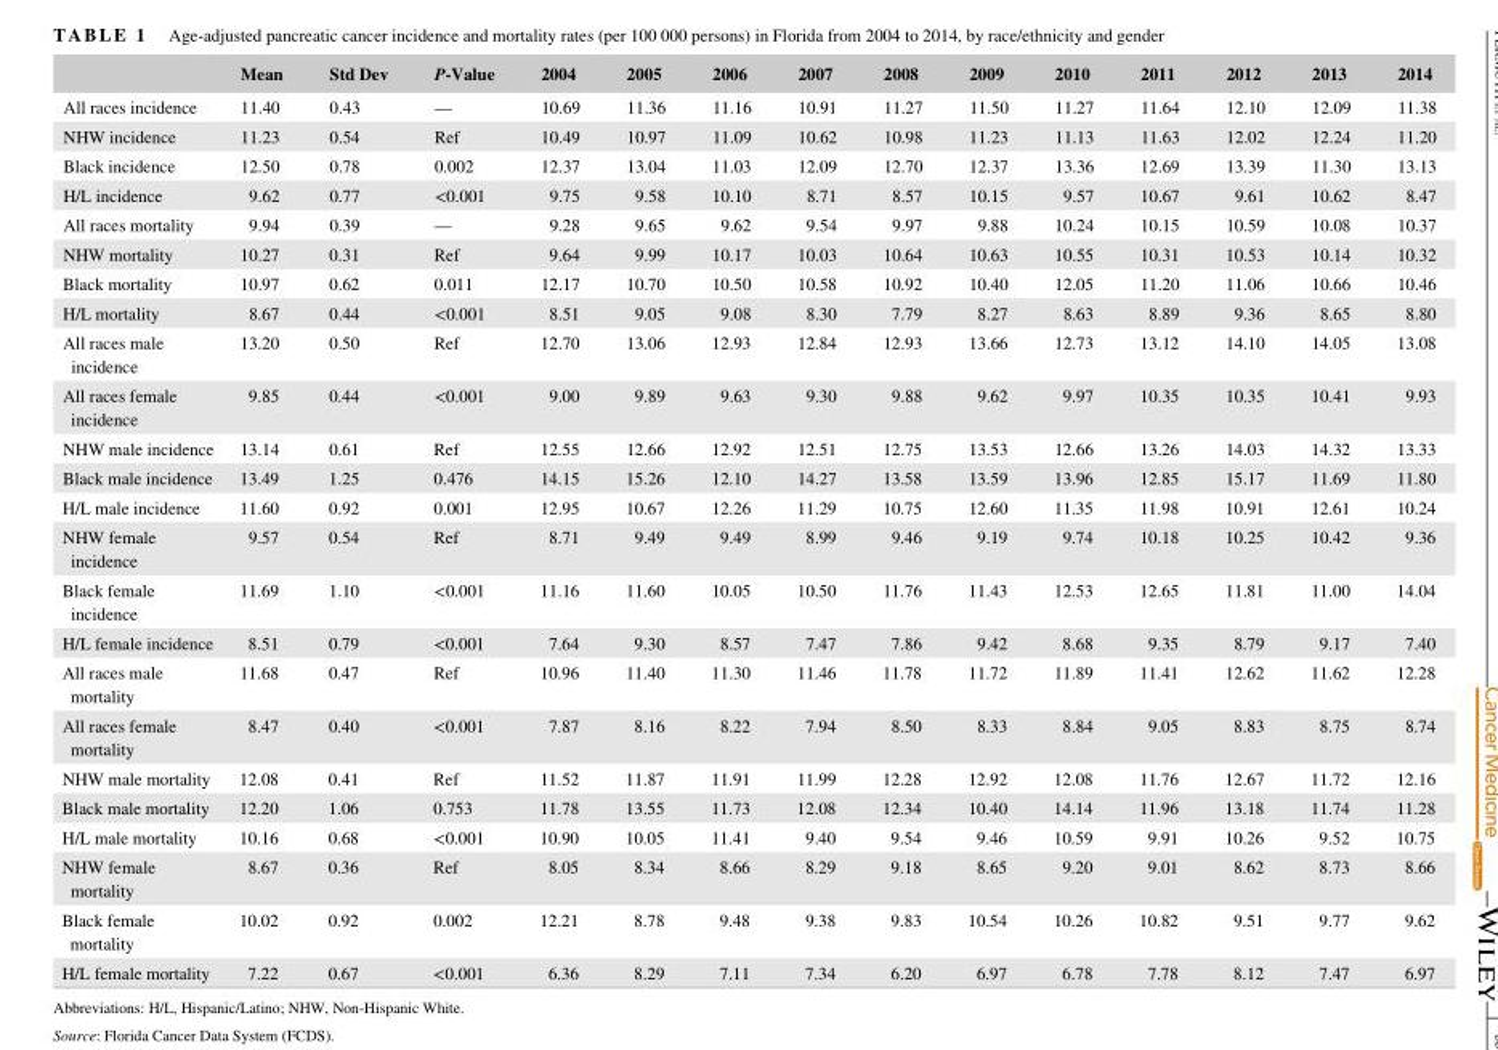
<table><thead><tr><td></td><td>Mean</td><td>Std Dev</td><td>P‐Value</td><td>2004</td><td>2005</td><td>2006</td><td>2007</td><td>2008</td><td>2009</td><td>2010</td><td>2011</td><td>2012</td><td>2013</td><td>2014</td></tr></thead><tbody><tr><td>All races incidence</td><td>11.40</td><td>0.43</td><td>—</td><td>10.69</td><td>11.36</td><td>11.16</td><td>10.91</td><td>11.27</td><td>11.50</td><td>11.27</td><td>11.64</td><td>12.10</td><td>12.09</td><td>11.38</td></tr><tr><td>NHW incidence</td><td>11.23</td><td>0.54</td><td>Ref</td><td>10.49</td><td>10.97</td><td>11.09</td><td>10.62</td><td>10.98</td><td>11.23</td><td>11.13</td><td>11.63</td><td>12.02</td><td>12.24</td><td>11.20</td></tr><tr><td>Black incidence</td><td>12.50</td><td>0.78</td><td>0.002</td><td>12.37</td><td>13.04</td><td>11.03</td><td>12.09</td><td>12.70</td><td>12.37</td><td>13.36</td><td>12.69</td><td>13.39</td><td>11.30</td><td>13.13</td></tr><tr><td>H/L incidence</td><td>9.62</td><td>0.77</td><td>&lt;0.001</td><td>9.75</td><td>9.58</td><td>10.10</td><td>8.71</td><td>8.57</td><td>10.15</td><td>9.57</td><td>10.67</td><td>9.61</td><td>10.62</td><td>8.47</td></tr><tr><td>All races mortality</td><td>9.94</td><td>0.39</td><td>—</td><td>9.28</td><td>9.65</td><td>9.62</td><td>9.54</td><td>9.97</td><td>9.88</td><td>10.24</td><td>10.15</td><td>10.59</td><td>10.08</td><td>10.37</td></tr><tr><td>NHW mortality</td><td>10.27</td><td>0.31</td><td>Ref</td><td>9.64</td><td>9.99</td><td>10.17</td><td>10.03</td><td>10.64</td><td>10.63</td><td>10.55</td><td>10.31</td><td>10.53</td><td>10.14</td><td>10.32</td></tr><tr><td>Black mortality</td><td>10.97</td><td>0.62</td><td>0.011</td><td>12.17</td><td>10.70</td><td>10.50</td><td>10.58</td><td>10.92</td><td>10.40</td><td>12.05</td><td>11.20</td><td>11.06</td><td>10.66</td><td>10.46</td></tr><tr><td>H/L mortality</td><td>8.67</td><td>0.44</td><td>&lt;0.001</td><td>8.51</td><td>9.05</td><td>9.08</td><td>8.30</td><td>7.79</td><td>8.27</td><td>8.63</td><td>8.89</td><td>9.36</td><td>8.65</td><td>8.80</td></tr><tr><td>All races male incidence</td><td>13.20</td><td>0.50</td><td>Ref</td><td>12.70</td><td>13.06</td><td>12.93</td><td>12.84</td><td>12.93</td><td>13.66</td><td>12.73</td><td>13.12</td><td>14.10</td><td>14.05</td><td>13.08</td></tr><tr><td>All races female incidence</td><td>9.85</td><td>0.44</td><td>&lt;0.001</td><td>9.00</td><td>9.89</td><td>9.63</td><td>9.30</td><td>9.88</td><td>9.62</td><td>9.97</td><td>10.35</td><td>10.35</td><td>10.41</td><td>9.93</td></tr><tr><td>NHW male incidence</td><td>13.14</td><td>0.61</td><td>Ref</td><td>12.55</td><td>12.66</td><td>12.92</td><td>12.51</td><td>12.75</td><td>13.53</td><td>12.66</td><td>13.26</td><td>14.03</td><td>14.32</td><td>13.33</td></tr><tr><td>Black male incidence</td><td>13.49</td><td>1.25</td><td>0.476</td><td>14.15</td><td>15.26</td><td>12.10</td><td>14.27</td><td>13.58</td><td>13.59</td><td>13.96</td><td>12.85</td><td>15.17</td><td>11.69</td><td>11.80</td></tr><tr><td>H/L male incidence</td><td>11.60</td><td>0.92</td><td>0.001</td><td>12.95</td><td>10.67</td><td>12.26</td><td>11.29</td><td>10.75</td><td>12.60</td><td>11.35</td><td>11.98</td><td>10.91</td><td>12.61</td><td>10.24</td></tr><tr><td>NHW female incidence</td><td>9.57</td><td>0.54</td><td>Ref</td><td>8.71</td><td>9.49</td><td>9.49</td><td>8.99</td><td>9.46</td><td>9.19</td><td>9.74</td><td>10.18</td><td>10.25</td><td>10.42</td><td>9.36</td></tr><tr><td>Black female incidence</td><td>11.69</td><td>1.10</td><td>&lt;0.001</td><td>11.16</td><td>11.60</td><td>10.05</td><td>10.50</td><td>11.76</td><td>11.43</td><td>12.53</td><td>12.65</td><td>11.81</td><td>11.00</td><td>14.04</td></tr><tr><td>H/L female incidence</td><td>8.51</td><td>0.79</td><td>&lt;0.001</td><td>7.64</td><td>9.30</td><td>8.57</td><td>7.47</td><td>7.86</td><td>9.42</td><td>8.68</td><td>9.35</td><td>8.79</td><td>9.17</td><td>7.40</td></tr><tr><td>All races male mortality</td><td>11.68</td><td>0.47</td><td>Ref</td><td>10.96</td><td>11.40</td><td>11.30</td><td>11.46</td><td>11.78</td><td>11.72</td><td>11.89</td><td>11.41</td><td>12.62</td><td>11.62</td><td>12.28</td></tr><tr><td>All races female mortality</td><td>8.47</td><td>0.40</td><td>&lt;0.001</td><td>7.87</td><td>8.16</td><td>8.22</td><td>7.94</td><td>8.50</td><td>8.33</td><td>8.84</td><td>9.05</td><td>8.83</td><td>8.75</td><td>8.74</td></tr><tr><td>NHW male mortality</td><td>12.08</td><td>0.41</td><td>Ref</td><td>11.52</td><td>11.87</td><td>11.91</td><td>11.99</td><td>12.28</td><td>12.92</td><td>12.08</td><td>11.76</td><td>12.67</td><td>11.72</td><td>12.16</td></tr><tr><td>Black male mortality</td><td>12.20</td><td>1.06</td><td>0.753</td><td>11.78</td><td>13.55</td><td>11.73</td><td>12.08</td><td>12.34</td><td>10.40</td><td>14.14</td><td>11.96</td><td>13.18</td><td>11.74</td><td>11.28</td></tr><tr><td>H/L male mortality</td><td>10.16</td><td>0.68</td><td>&lt;0.001</td><td>10.90</td><td>10.05</td><td>11.41</td><td>9.40</td><td>9.54</td><td>9.46</td><td>10.59</td><td>9.91</td><td>10.26</td><td>9.52</td><td>10.75</td></tr><tr><td>NHW female mortality</td><td>8.67</td><td>0.36</td><td>Ref</td><td>8.05</td><td>8.34</td><td>8.66</td><td>8.29</td><td>9.18</td><td>8.65</td><td>9.20</td><td>9.01</td><td>8.62</td><td>8.73</td><td>8.66</td></tr><tr><td>Black female mortality</td><td>10.02</td><td>0.92</td><td>0.002</td><td>12.21</td><td>8.78</td><td>9.48</td><td>9.38</td><td>9.83</td><td>10.54</td><td>10.26</td><td>10.82</td><td>9.51</td><td>9.77</td><td>9.62</td></tr><tr><td>H/L female mortality</td><td>7.22</td><td>0.67</td><td>&lt;0.001</td><td>6.36</td><td>8.29</td><td>7.11</td><td>7.34</td><td>6.20</td><td>6.97</td><td>6.78</td><td>7.78</td><td>8.12</td><td>7.47</td><td>6.97</td></tr></tbody></table>